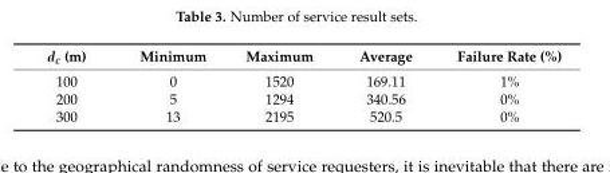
<table><thead><tr><td>d<sub>c</sub> (m)</td><td>Minimum</td><td>Maximum</td><td>Average</td><td>Failure Rate (%)</td></tr></thead><tbody><tr><td>100</td><td>0</td><td>1520</td><td>169.11</td><td>1%</td></tr><tr><td>200</td><td>5</td><td>1294</td><td>340.56</td><td>0%</td></tr><tr><td>300</td><td>13</td><td>2195</td><td>520.5</td><td>0%</td></tr></tbody></table>